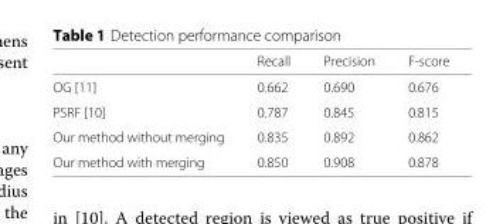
<table><thead><tr><td></td><td>Recall</td><td>Precision</td><td>F-score</td></tr></thead><tbody><tr><td>OG [11]</td><td>0.662</td><td>0.690</td><td>0.676</td></tr><tr><td>PSRF [10]</td><td>0.787</td><td>0.845</td><td>0.815</td></tr><tr><td>Our method without merging</td><td>0.835</td><td>0.892</td><td>0.862</td></tr><tr><td>Our method with merging</td><td>0.850</td><td>0.908</td><td>0.878</td></tr></tbody></table>